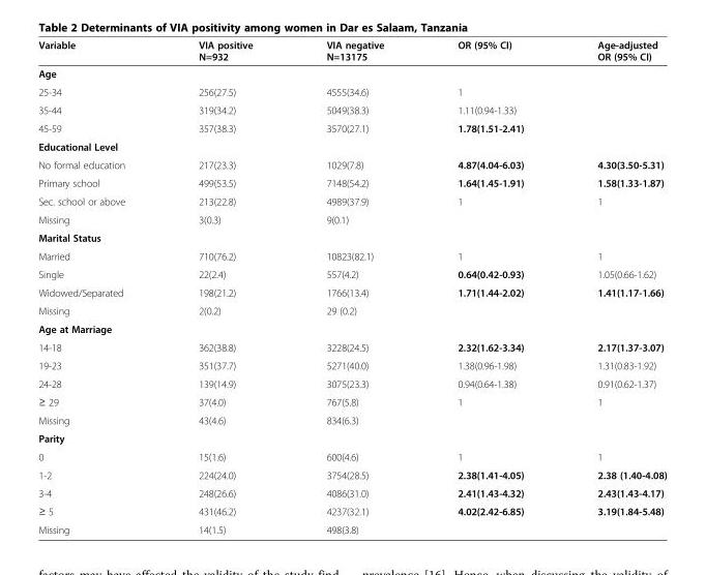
<table><thead><tr><td>Variable</td><td>VIA positive N=932</td><td>VIA negative N=13175</td><td>OR (95% CI)</td><td>Age-adjusted OR (95% CI)</td></tr></thead><tbody><tr><td colspan="5">Age</td></tr><tr><td>25-34</td><td>256(27.5)</td><td>4555(34.6)</td><td>1</td><td></td></tr><tr><td>35-44</td><td>319(34.2)</td><td>5049(38.3)</td><td>1.11(0.94-1.33)</td><td></td></tr><tr><td>45-59</td><td>357(38.3)</td><td>3570(27.1)</td><td>1.78(1.51-2.41)</td><td></td></tr><tr><td colspan="5">Educational Level</td></tr><tr><td>No formal education</td><td>217(23.3)</td><td>1029(7.8)</td><td>4.87(4.04-6.03)</td><td>4.30(3.50-5.31)</td></tr><tr><td>Primary school</td><td>499(53.5)</td><td>7148(54.2)</td><td>1.64(1.45-1.91)</td><td>1.58(1.33-1.87)</td></tr><tr><td>Sec. school or above</td><td>213(22.8)</td><td>4989(37.9)</td><td>1</td><td>1</td></tr><tr><td>Missing</td><td>3(0.3)</td><td>9(0.1)</td><td></td><td></td></tr><tr><td colspan="5">Marital Status</td></tr><tr><td>Married</td><td>710(76.2)</td><td>10823(82.1)</td><td>1</td><td>1</td></tr><tr><td>Single</td><td>22(2.4)</td><td>557(4.2)</td><td>0.64(0.42-0.93)</td><td>1.05(0.66-1.62)</td></tr><tr><td>Widowed/Separated</td><td>198(21.2)</td><td>1766(13.4)</td><td>1.71(1.44-2.02)</td><td>1.41(1.17-1.66)</td></tr><tr><td>Missing</td><td>2(0.2)</td><td>29 (0.2)</td><td></td><td></td></tr><tr><td colspan="5">Age at Marriage</td></tr><tr><td>14-18</td><td>362(38.8)</td><td>3228(24.5)</td><td>2.32(1.62-3.34)</td><td>2.17(1.37-3.07)</td></tr><tr><td>19-23</td><td>351(37.7)</td><td>5271(40.0)</td><td>1.38(0.96-1.98)</td><td>1.31(0.83-1.92)</td></tr><tr><td>24-28</td><td>139(14.9)</td><td>3075(23.3)</td><td>0.94(0.64-1.38)</td><td>0.91(0.62-1.37)</td></tr><tr><td>≥ 29</td><td>37(4.0)</td><td>767(5.8)</td><td>1</td><td>1</td></tr><tr><td>Missing</td><td>43(4.6)</td><td>834(6.3)</td><td></td><td></td></tr><tr><td colspan="5">Parity</td></tr><tr><td>0</td><td>15(1.6)</td><td>600(4.6)</td><td>1</td><td>1</td></tr><tr><td>1-2</td><td>224(24.0)</td><td>3754(28.5)</td><td>2.38(1.41-4.05)</td><td>2.38 (1.40-4.08)</td></tr><tr><td>3-4</td><td>248(26.6)</td><td>4086(31.0)</td><td>2.41(1.43-4.32)</td><td>2.43(1.43-4.17)</td></tr><tr><td>≥ 5</td><td>431(46.2)</td><td>4237(32.1)</td><td>4.02(2.42-6.85)</td><td>3.19(1.84-5.48)</td></tr><tr><td>Missing</td><td>14(1.5)</td><td>498(3.8)</td><td></td><td></td></tr></tbody></table>